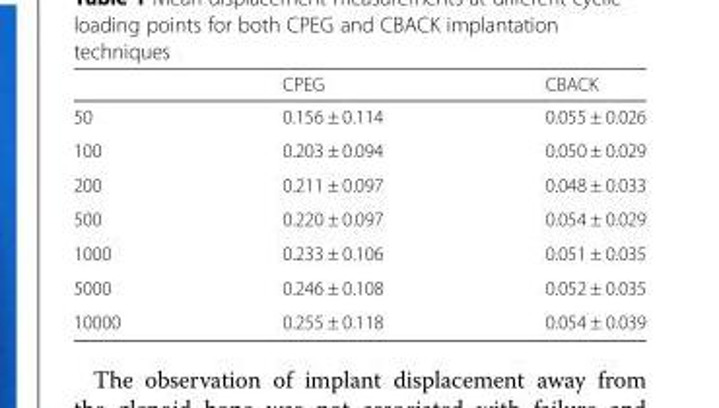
<table><thead><tr><td></td><td>CPEG</td><td>CBACK</td></tr></thead><tbody><tr><td>50</td><td>0.156 ± 0.114</td><td>0.055 ± 0.026</td></tr><tr><td>100</td><td>0.203 ± 0.094</td><td>0.050 ± 0.029</td></tr><tr><td>200</td><td>0.211 ± 0.097</td><td>0.048 ± 0.033</td></tr><tr><td>500</td><td>0.220 ± 0.097</td><td>0.054 ± 0.029</td></tr><tr><td>1000</td><td>0.233 ± 0.106</td><td>0.051 ± 0.035</td></tr><tr><td>5000</td><td>0.246 ± 0.108</td><td>0.052 ± 0.035</td></tr><tr><td>10000</td><td>0.255 ± 0.118</td><td>0.054 ± 0.039</td></tr></tbody></table>